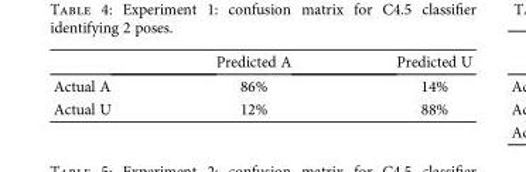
<table><thead><tr><td></td><td>Predicted A</td><td>Predicted U</td></tr></thead><tbody><tr><td>Actual A</td><td>86%</td><td>14%</td></tr><tr><td>Actual U</td><td>12%</td><td>88%</td></tr></tbody></table>